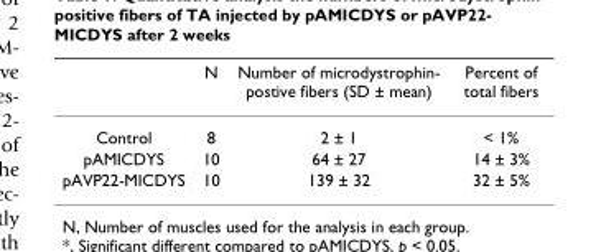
<table><thead><tr><td></td><td>N</td><td>Number of microdystrophin- postive fibers (SD ± mean)</td><td>Percent of total fibers</td></tr></thead><tbody><tr><td>Control</td><td>8</td><td>2 ± 1</td><td>&lt; 1%</td></tr><tr><td>pAMICDYS</td><td>10</td><td>64 ± 27</td><td>14 ± 3%</td></tr><tr><td>pAVP22-MICDYS</td><td>10</td><td>139 ± 32</td><td>32 ± 5%</td></tr></tbody></table>